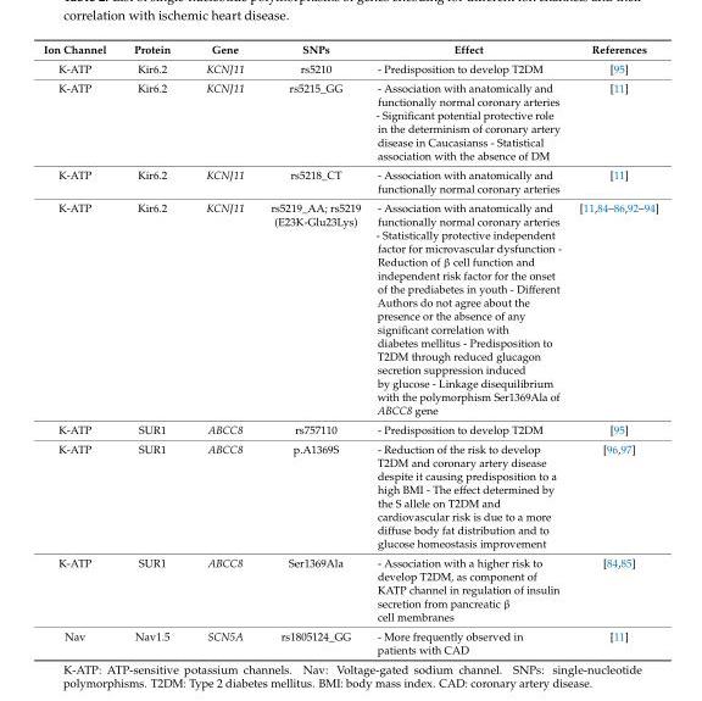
<table><thead><tr><td>Ion Channel</td><td>Protein</td><td>Gene</td><td>SNPs</td><td>Effect</td><td>References</td></tr></thead><tbody><tr><td>K-ATP</td><td>Kir6.2</td><td>KCNJ11</td><td>rs5210</td><td>- Predisposition to develop T2DM</td><td>[95]</td></tr><tr><td>K-ATP</td><td>Kir6.2</td><td>KCNJ11</td><td>rs5215_GG</td><td>- Association with anatomically and functionally normal coronary arteries - Significant potential protective role in the determinism of coronary artery disease in Caucasianss - Statistical association with the absence of DM</td><td>[11]</td></tr><tr><td>K-ATP</td><td>Kir6.2</td><td>KCNJ11</td><td>rs5218_CT</td><td>- Association with anatomically and functionally normal coronary arteries</td><td>[11]</td></tr><tr><td>K-ATP</td><td>Kir6.2</td><td>KCNJ11</td><td>rs5219_AA; rs5219 (E23K-Glu23Lys)</td><td>- Association with anatomically and functionally normal coronary arteries - Statistically protective independent factor for microvascular dysfunction - Reduction of β cell function and independent risk factor for the onset of the prediabetes in youth - Different Authors do not agree about the presence or the absence of any significant correlation with diabetes mellitus - Predisposition to T2DM through reduced glucagon secretion suppression induced by glucose - Linkage disequilibrium with the polymorphism Ser1369Ala of ABCC8 gene</td><td>[11,84–86,92–94]</td></tr><tr><td>K-ATP</td><td>SUR1</td><td>ABCC8</td><td>rs757110</td><td>- Predisposition to develop T2DM</td><td>[95]</td></tr><tr><td>K-ATP</td><td>SUR1</td><td>ABCC8</td><td>p.A1369S</td><td>- Reduction of the risk to develop T2DM and coronary artery disease despite it causing predisposition to a high BMI - The effect determined by the S allele on T2DM and cardiovascular risk is due to a more diffuse body fat distribution and to glucose homeostasis improvement</td><td>[96,97]</td></tr><tr><td>K-ATP</td><td>SUR1</td><td>ABCC8</td><td>Ser1369Ala</td><td>- Association with a higher risk to develop T2DM, as component of KATP channel in regulation of insulin secretion from pancreatic β cell membranes</td><td>[84,85]</td></tr><tr><td>Nav</td><td>Nav1.5</td><td>SCN5A</td><td>rs1805124_GG</td><td>- More frequently observed in patients with CAD</td><td>[11]</td></tr></tbody></table>